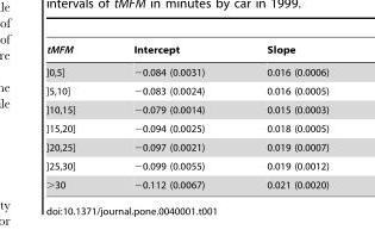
<table><thead><tr><td>tMFM</td><td>Intercept</td><td>Slope</td></tr></thead><tbody><tr><td>]0,5]</td><td>−0.084 (0.0031)</td><td>0.016 (0.0006)</td></tr><tr><td>]5,10]</td><td>−0.083 (0.0024)</td><td>0.016 (0.0005)</td></tr><tr><td>]10,15]</td><td>−0.079 (0.0014)</td><td>0.015 (0.0003)</td></tr><tr><td>]15,20]</td><td>−0.094 (0.0025)</td><td>0.018 (0.0005)</td></tr><tr><td>]20,25]</td><td>−0.097 (0.0021)</td><td>0.019 (0.0007)</td></tr><tr><td>]25,30]</td><td>−0.099 (0.0055)</td><td>0.019 (0.0012)</td></tr><tr><td>&gt;30</td><td>−0.112 (0.0067)</td><td>0.021 (0.0020)</td></tr></tbody></table>